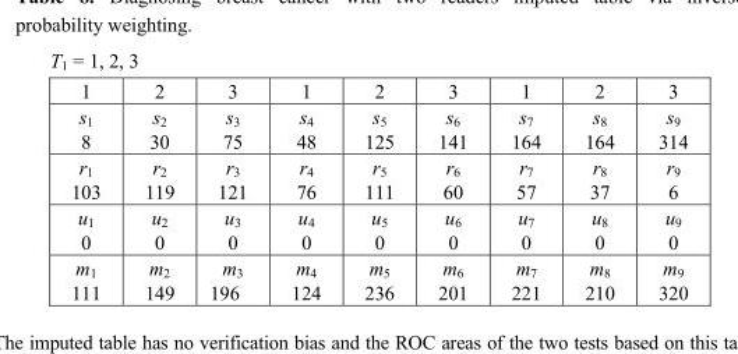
<table><tbody><tr><td colspan="9">T<sub>1</sub> = 1, 2, 3</td></tr><tr><td>1</td><td>2</td><td>3</td><td>1</td><td>2</td><td>3</td><td>1</td><td>2</td><td>3</td></tr><tr><td>s<sub>1</sub> 8</td><td>s<sub>2</sub> 30</td><td>s<sub>3</sub> 75</td><td>s<sub>4</sub> 48</td><td>s<sub>5</sub> 125</td><td>s<sub>6</sub> 141</td><td>s<sub>7</sub> 164</td><td>s<sub>8</sub> 164</td><td>s<sub>9</sub> 314</td></tr><tr><td>r<sub>1</sub> 103</td><td>r<sub>2</sub> 119</td><td>r<sub>3</sub> 121</td><td>r<sub>4</sub> 76</td><td>r<sub>5</sub> 111</td><td>r<sub>6</sub> 60</td><td>r<sub>7</sub> 57</td><td>r<sub>8</sub> 37</td><td>r<sub>9</sub> 6</td></tr><tr><td>u<sub>1</sub> 0</td><td>u<sub>2</sub> 0</td><td>u<sub>3</sub> 0</td><td>u<sub>4</sub> 0</td><td>u<sub>5</sub> 0</td><td>u<sub>6</sub> 0</td><td>u<sub>7</sub> 0</td><td>u<sub>8</sub> 0</td><td>u<sub>9</sub> 0</td></tr><tr><td>m<sub>1</sub> 111</td><td>m<sub>2</sub> 149</td><td>m<sub>3</sub> 196</td><td>m<sub>4</sub> 124</td><td>m<sub>5</sub> 236</td><td>m<sub>6</sub> 201</td><td>m<sub>7</sub> 221</td><td>m<sub>8</sub> 210</td><td>m<sub>9</sub> 320</td></tr></tbody></table>